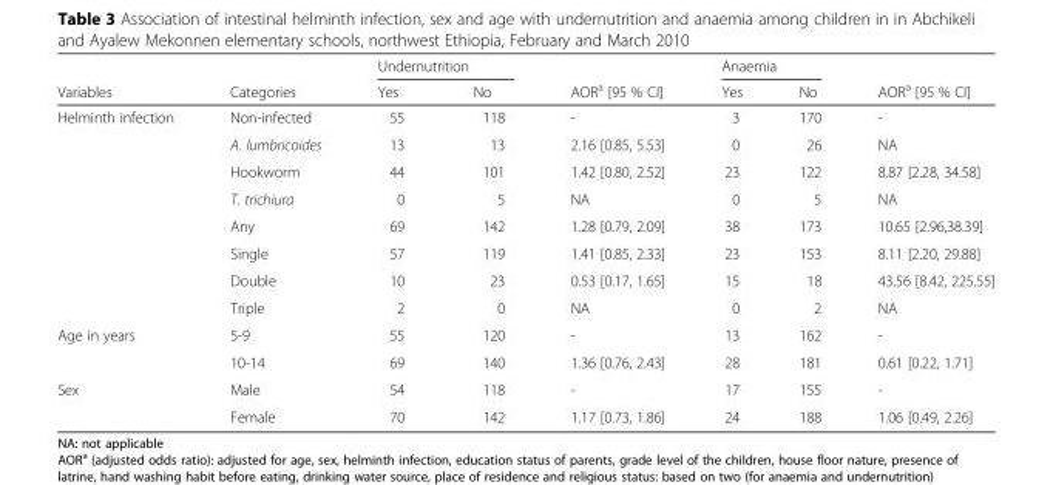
<table><thead><tr><td rowspan="2">Variables</td><td rowspan="2">Categories</td><td colspan="2">Undernutrition</td><td rowspan="2">AOR<sup>a</sup> [95 % CI]</td><td colspan="2">Anaemia</td><td rowspan="2">AOR<sup>a</sup> [95 % CI]</td></tr><tr><td>Yes</td><td>No</td><td>Yes</td><td>No</td></tr></thead><tbody><tr><td rowspan="8">Helminth infection</td><td>Non-infected</td><td>55</td><td>118</td><td>-</td><td>3</td><td>170</td><td>-</td></tr><tr><td>A. lumbricoides</td><td>13</td><td>13</td><td>2.16 [0.85, 5.53]</td><td>0</td><td>26</td><td>NA</td></tr><tr><td>Hookworm</td><td>44</td><td>101</td><td>1.42 [0.80, 2.52]</td><td>23</td><td>122</td><td>8.87 [2.28, 34.58]</td></tr><tr><td>T. trichiura</td><td>0</td><td>5</td><td>NA</td><td>0</td><td>5</td><td>NA</td></tr><tr><td>Any</td><td>69</td><td>142</td><td>1.28 [0.79, 2.09]</td><td>38</td><td>173</td><td>10.65 [2.96,38.39]</td></tr><tr><td>Single</td><td>57</td><td>119</td><td>1.41 [0.85, 2.33]</td><td>23</td><td>153</td><td>8.11 [2.20, 29.88]</td></tr><tr><td>Double</td><td>10</td><td>23</td><td>0.53 [0.17, 1.65]</td><td>15</td><td>18</td><td>43.56 [8.42, 225.55]</td></tr><tr><td>Triple</td><td>2</td><td>0</td><td>NA</td><td>0</td><td>2</td><td>NA</td></tr><tr><td rowspan="2">Age in years</td><td>5-9</td><td>55</td><td>120</td><td>-</td><td>13</td><td>162</td><td>-</td></tr><tr><td>10-14</td><td>69</td><td>140</td><td>1.36 [0.76, 2.43]</td><td>28</td><td>181</td><td>0.61 [0.22, 1.71]</td></tr><tr><td rowspan="2">Sex</td><td>Male</td><td>54</td><td>118</td><td>-</td><td>17</td><td>155</td><td>-</td></tr><tr><td>Female</td><td>70</td><td>142</td><td>1.17 [0.73, 1.86]</td><td>24</td><td>188</td><td>1.06 [0.49, 2.26]</td></tr></tbody></table>